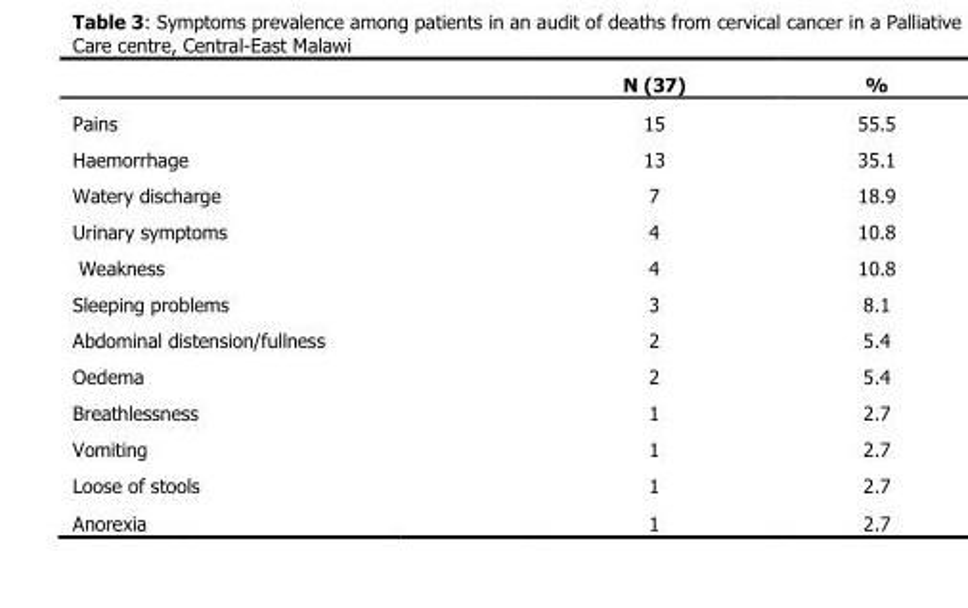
<table><thead><tr><td></td><td>N (37)</td><td>%</td></tr></thead><tbody><tr><td>Pains</td><td>15</td><td>55.5</td></tr><tr><td>Haemorrhage</td><td>13</td><td>35.1</td></tr><tr><td>Watery discharge</td><td>7</td><td>18.9</td></tr><tr><td>Urinary symptoms</td><td>4</td><td>10.8</td></tr><tr><td>Weakness</td><td>4</td><td>10.8</td></tr><tr><td>Sleeping problems</td><td>3</td><td>8.1</td></tr><tr><td>Abdominal distension/fullness</td><td>2</td><td>5.4</td></tr><tr><td>Oedema</td><td>2</td><td>5.4</td></tr><tr><td>Breathlessness</td><td>1</td><td>2.7</td></tr><tr><td>Vomiting</td><td>1</td><td>2.7</td></tr><tr><td>Loose of stools</td><td>1</td><td>2.7</td></tr><tr><td>Anorexia</td><td>1</td><td>2.7</td></tr></tbody></table>